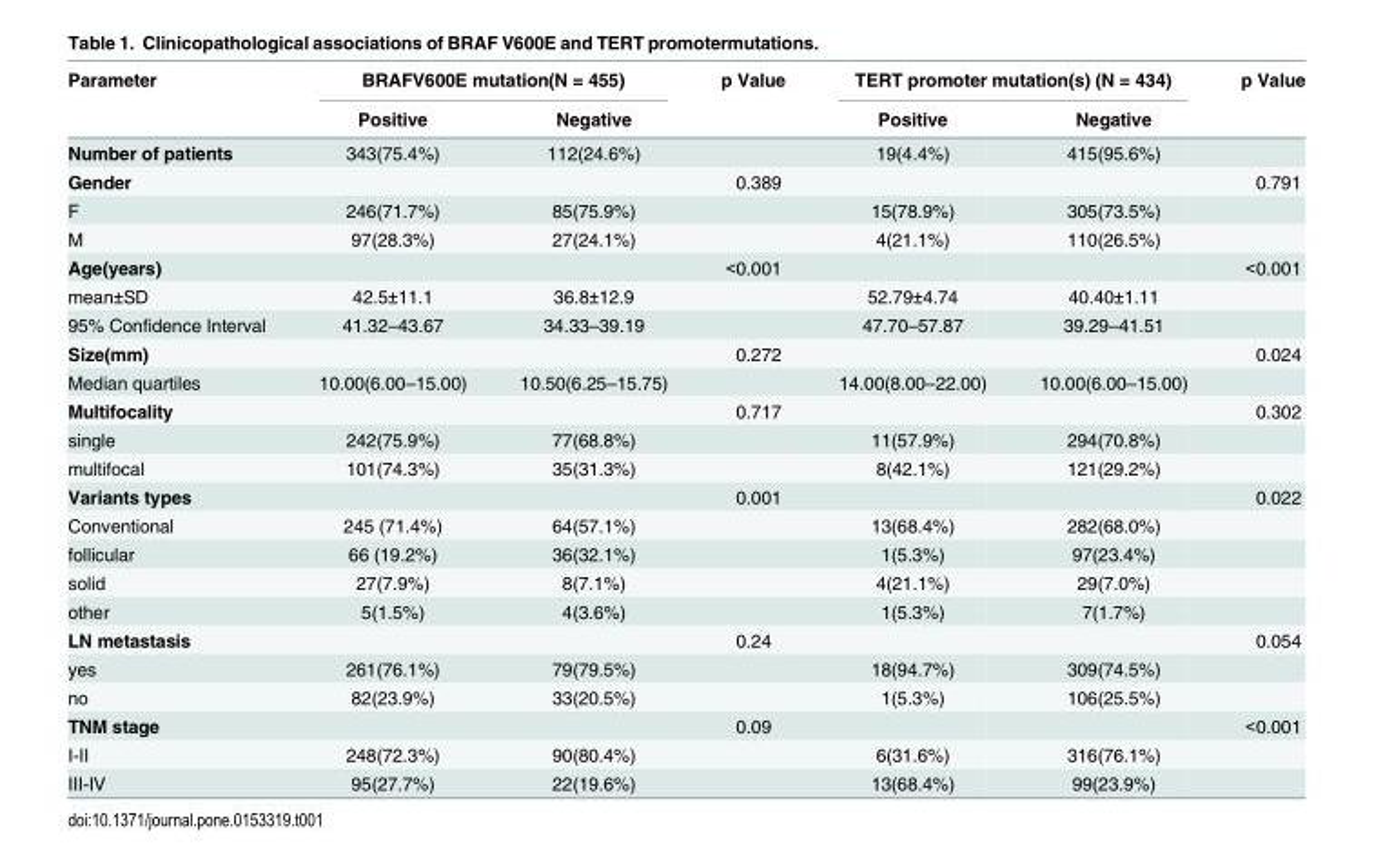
<table><thead><tr><td rowspan="2">Parameter</td><td colspan="2">BRAFV600E mutation(N = 455)</td><td rowspan="2">p Value</td><td colspan="2">TERT promoter mutation(s) (N = 434)</td><td rowspan="2">p Value</td></tr><tr><td>Positive</td><td>Negative</td><td>Positive</td><td>Negative</td></tr></thead><tbody><tr><td>Number of patients</td><td>343(75.4%)</td><td>112(24.6%)</td><td></td><td>19(4.4%)</td><td>415(95.6%)</td><td></td></tr><tr><td>Gender</td><td></td><td></td><td>0.389</td><td></td><td></td><td>0.791</td></tr><tr><td>F</td><td>246(71.7%)</td><td>85(75.9%)</td><td></td><td>15(78.9%)</td><td>305(73.5%)</td><td></td></tr><tr><td>M</td><td>97(28.3%)</td><td>27(24.1%)</td><td></td><td>4(21.1%)</td><td>110(26.5%)</td><td></td></tr><tr><td>Age(years)</td><td></td><td></td><td>&lt;0.001</td><td></td><td></td><td>&lt;0.001</td></tr><tr><td>mean±SD</td><td>42.5±11.1</td><td>36.8±12.9</td><td></td><td>52.79±4.74</td><td>40.40±1.11</td><td></td></tr><tr><td>95% Confidence Interval</td><td>41.32–43.67</td><td>34.33–39.19</td><td></td><td>47.70–57.87</td><td>39.29–41.51</td><td></td></tr><tr><td>Size(mm)</td><td></td><td></td><td>0.272</td><td></td><td></td><td>0.024</td></tr><tr><td>Median quartiles</td><td>10.00(6.00–15.00)</td><td>10.50(6.25–15.75)</td><td></td><td>14.00(8.00–22.00)</td><td>10.00(6.00–15.00)</td><td></td></tr><tr><td>Multifocality</td><td></td><td></td><td>0.717</td><td></td><td></td><td>0.302</td></tr><tr><td>single</td><td>242(75.9%)</td><td>77(68.8%)</td><td></td><td>11(57.9%)</td><td>294(70.8%)</td><td></td></tr><tr><td>multifocal</td><td>101(74.3%)</td><td>35(31.3%)</td><td></td><td>8(42.1%)</td><td>121(29.2%)</td><td></td></tr><tr><td>Variants types</td><td></td><td></td><td>0.001</td><td></td><td></td><td>0.022</td></tr><tr><td>Conventional</td><td>245 (71.4%)</td><td>64(57.1%)</td><td></td><td>13(68.4%)</td><td>282(68.0%)</td><td></td></tr><tr><td>follicular</td><td>66 (19.2%)</td><td>36(32.1%)</td><td></td><td>1(5.3%)</td><td>97(23.4%)</td><td></td></tr><tr><td>solid</td><td>27(7.9%)</td><td>8(7.1%)</td><td></td><td>4(21.1%)</td><td>29(7.0%)</td><td></td></tr><tr><td>other</td><td>5(1.5%)</td><td>4(3.6%)</td><td></td><td>1(5.3%)</td><td>7(1.7%)</td><td></td></tr><tr><td>LN metastasis</td><td></td><td></td><td>0.24</td><td></td><td></td><td>0.054</td></tr><tr><td>yes</td><td>261(76.1%)</td><td>79(79.5%)</td><td></td><td>18(94.7%)</td><td>309(74.5%)</td><td></td></tr><tr><td>no</td><td>82(23.9%)</td><td>33(20.5%)</td><td></td><td>1(5.3%)</td><td>106(25.5%)</td><td></td></tr><tr><td>TNM stage</td><td></td><td></td><td>0.09</td><td></td><td></td><td>&lt;0.001</td></tr><tr><td>I-II</td><td>248(72.3%)</td><td>90(80.4%)</td><td></td><td>6(31.6%)</td><td>316(76.1%)</td><td></td></tr><tr><td>III-IV</td><td>95(27.7%)</td><td>22(19.6%)</td><td></td><td>13(68.4%)</td><td>99(23.9%)</td><td></td></tr></tbody></table>